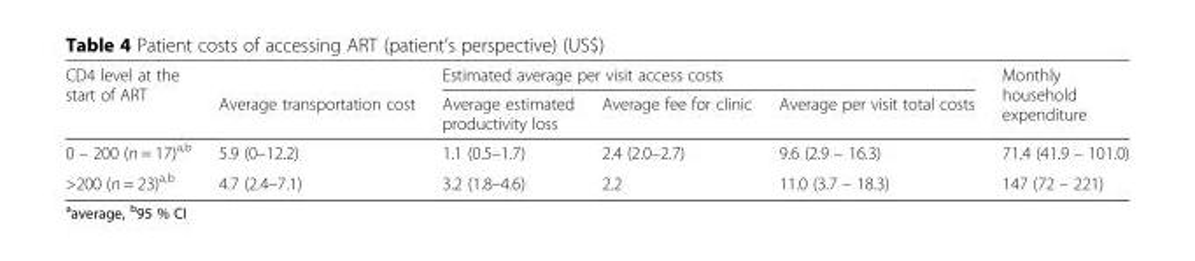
<table><thead><tr><td rowspan="2">CD4 level at the start of ART</td><td rowspan="2">Average transportation cost</td><td colspan="3">Estimated average per visit access costs</td><td rowspan="2">Monthly household expenditure</td></tr><tr><td>Average estimated productivity loss</td><td>Average fee for clinic</td><td>Average per visit total costs</td></tr></thead><tbody><tr><td>0 – 200 (n = 17)<sup>a,b</sup></td><td>5.9 (0–12.2)</td><td>1.1 (0.5–1.7)</td><td>2.4 (2.0–2.7)</td><td>9.6 (2.9 – 16.3)</td><td>71.4 (41.9 – 101.0)</td></tr><tr><td>&gt;200 (n = 23)<sup>a,b</sup></td><td>4.7 (2.4–7.1)</td><td>3.2 (1.8–4.6)</td><td>2.2</td><td>11.0 (3.7 – 18.3)</td><td>147 (72 – 221)</td></tr></tbody></table>